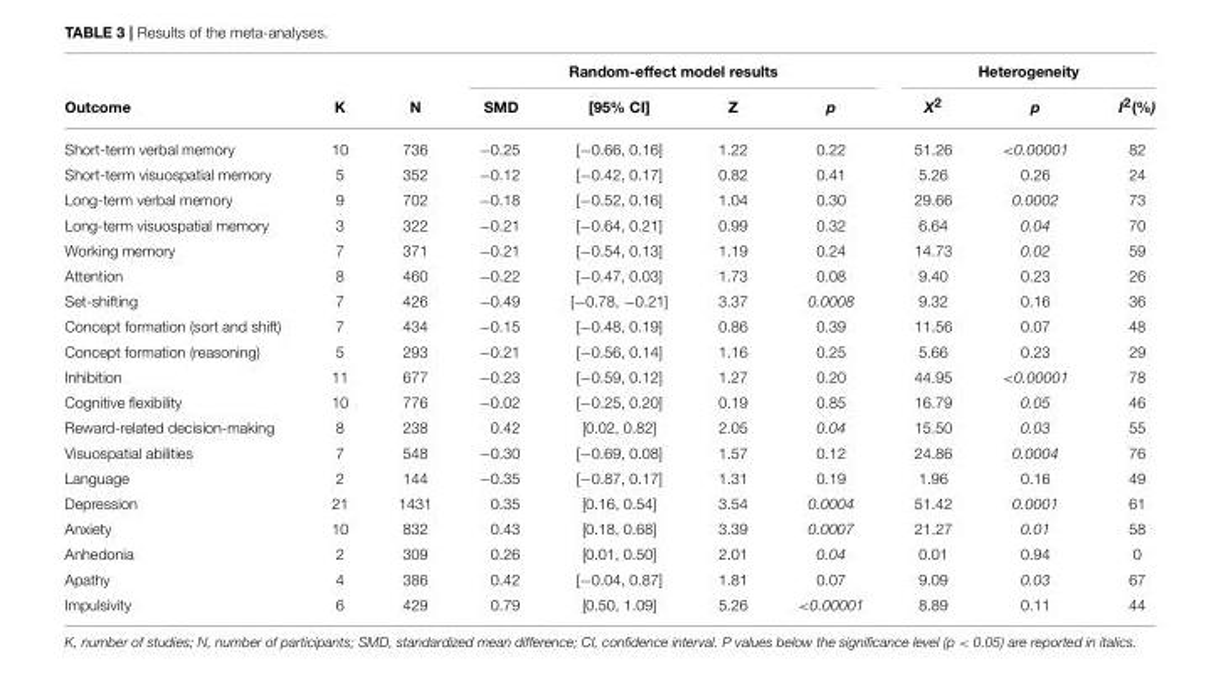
<table><thead><tr><td rowspan="2">Outcome</td><td rowspan="2">K</td><td rowspan="2">N</td><td colspan="4">Random-effect model results</td><td colspan="3">Heterogeneity</td></tr><tr><td>SMD</td><td>[95% CI]</td><td>Z</td><td>p</td><td>X<sup>2</sup></td><td>p</td><td>I<sup>2</sup>(%)</td></tr></thead><tbody><tr><td>Short-term verbal memory</td><td>10</td><td>736</td><td>−0.25</td><td>[−0.66, 0.16]</td><td>1.22</td><td>0.22</td><td>51.26</td><td>&lt;0.00001</td><td>82</td></tr><tr><td>Short-term visuospatial memory</td><td>5</td><td>352</td><td>−0.12</td><td>[−0.42, 0.17]</td><td>0.82</td><td>0.41</td><td>5.26</td><td>0.26</td><td>24</td></tr><tr><td>Long-term verbal memory</td><td>9</td><td>702</td><td>−0.18</td><td>[−0.52, 0.16]</td><td>1.04</td><td>0.30</td><td>29.66</td><td>0.0002</td><td>73</td></tr><tr><td>Long-term visuospatial memory</td><td>3</td><td>322</td><td>−0.21</td><td>[−0.64, 0.21]</td><td>0.99</td><td>0.32</td><td>6.64</td><td>0.04</td><td>70</td></tr><tr><td>Working memory</td><td>7</td><td>371</td><td>−0.21</td><td>[−0.54, 0.13]</td><td>1.19</td><td>0.24</td><td>14.73</td><td>0.02</td><td>59</td></tr><tr><td>Attention</td><td>8</td><td>460</td><td>−0.22</td><td>[−0.47, 0.03]</td><td>1.73</td><td>0.08</td><td>9.40</td><td>0.23</td><td>26</td></tr><tr><td>Set-shifting</td><td>7</td><td>426</td><td>−0.49</td><td>[−0.78, −0.21]</td><td>3.37</td><td>0.0008</td><td>9.32</td><td>0.16</td><td>36</td></tr><tr><td>Concept formation (sort and shift)</td><td>7</td><td>434</td><td>−0.15</td><td>[−0.48, 0.19]</td><td>0.86</td><td>0.39</td><td>11.56</td><td>0.07</td><td>48</td></tr><tr><td>Concept formation (reasoning)</td><td>5</td><td>293</td><td>−0.21</td><td>[−0.56, 0.14]</td><td>1.16</td><td>0.25</td><td>5.66</td><td>0.23</td><td>29</td></tr><tr><td>Inhibition</td><td>11</td><td>677</td><td>−0.23</td><td>[−0.59, 0.12]</td><td>1.27</td><td>0.20</td><td>44.95</td><td>&lt;0.00001</td><td>78</td></tr><tr><td>Cognitive flexibility</td><td>10</td><td>776</td><td>−0.02</td><td>[−0.25, 0.20]</td><td>0.19</td><td>0.85</td><td>16.79</td><td>0.05</td><td>46</td></tr><tr><td>Reward-related decision-making</td><td>8</td><td>238</td><td>0.42</td><td>[0.02, 0.82]</td><td>2.05</td><td>0.04</td><td>15.50</td><td>0.03</td><td>55</td></tr><tr><td>Visuospatial abilities</td><td>7</td><td>548</td><td>−0.30</td><td>[−0.69, 0.08]</td><td>1.57</td><td>0.12</td><td>24.86</td><td>0.0004</td><td>76</td></tr><tr><td>Language</td><td>2</td><td>144</td><td>−0.35</td><td>[−0.87, 0.17]</td><td>1.31</td><td>0.19</td><td>1.96</td><td>0.16</td><td>49</td></tr><tr><td>Depression</td><td>21</td><td>1431</td><td>0.35</td><td>[0.16, 0.54]</td><td>3.54</td><td>0.0004</td><td>51.42</td><td>0.0001</td><td>61</td></tr><tr><td>Anxiety</td><td>10</td><td>832</td><td>0.43</td><td>[0.18, 0.68]</td><td>3.39</td><td>0.0007</td><td>21.27</td><td>0.01</td><td>58</td></tr><tr><td>Anhedonia</td><td>2</td><td>309</td><td>0.26</td><td>[0.01, 0.50]</td><td>2.01</td><td>0.04</td><td>0.01</td><td>0.94</td><td>0</td></tr><tr><td>Apathy</td><td>4</td><td>386</td><td>0.42</td><td>[−0.04, 0.87]</td><td>1.81</td><td>0.07</td><td>9.09</td><td>0.03</td><td>67</td></tr><tr><td>Impulsivity</td><td>6</td><td>429</td><td>0.79</td><td>[0.50, 1.09]</td><td>5.26</td><td>&lt;0.00001</td><td>8.89</td><td>0.11</td><td>44</td></tr></tbody></table>